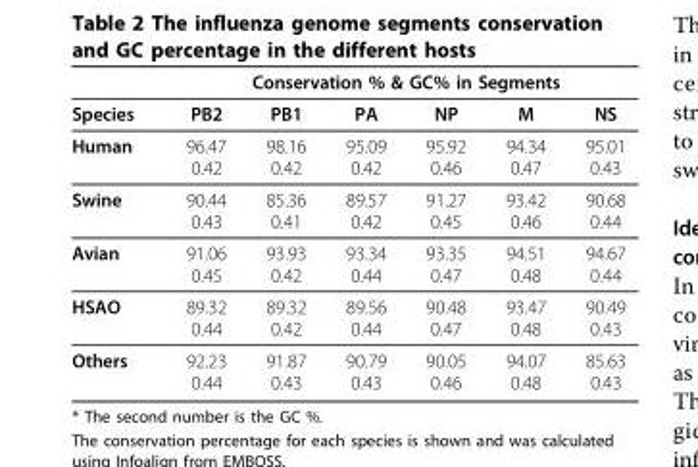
<table><thead><tr><td rowspan="2">Species</td><td colspan="6">Conservation % &amp; GC% in Segments</td></tr><tr><td>PB2</td><td>PB1</td><td>PA</td><td>NP</td><td>M</td><td>NS</td></tr></thead><tbody><tr><td>Human</td><td>96.47 0.42</td><td>98.16 0.42</td><td>95.09 0.42</td><td>95.92 0.46</td><td>94.34 0.47</td><td>95.01 0.43</td></tr><tr><td>Swine</td><td>90.44 0.43</td><td>85.36 0.41</td><td>89.57 0.42</td><td>91.27 0.45</td><td>93.42 0.46</td><td>90.68 0.44</td></tr><tr><td>Avian</td><td>91.06 0.45</td><td>93.93 0.42</td><td>93.34 0.44</td><td>93.35 0.47</td><td>94.51 0.48</td><td>94.67 0.44</td></tr><tr><td>HSAO</td><td>89.32 0.44</td><td>89.32 0.42</td><td>89.56 0.44</td><td>90.48 0.47</td><td>93.47 0.48</td><td>90.49 0.43</td></tr><tr><td>Others</td><td>92.23 0.44</td><td>91.87 0.43</td><td>90.79 0.43</td><td>90.05 0.46</td><td>94.07 0.48</td><td>85.63 0.43</td></tr></tbody></table>